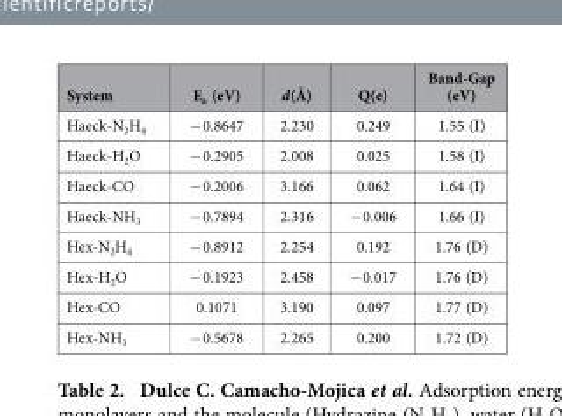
<table><thead><tr><td>System</td><td>E<sub>a</sub> (eV)</td><td>d(Å)</td><td>Q(e)</td><td>Band-Gap (eV)</td></tr></thead><tbody><tr><td>Haeck-N<sub>2</sub>H<sub>4</sub></td><td>− 0.8647</td><td>2.230</td><td>0.249</td><td>1.55 (I)</td></tr><tr><td>Haeck-H<sub>2</sub>O</td><td>− 0.2905</td><td>2.008</td><td>0.025</td><td>1.58 (I)</td></tr><tr><td>Haeck-CO</td><td>− 0.2006</td><td>3.166</td><td>0.062</td><td>1.64 (I)</td></tr><tr><td>Haeck-NH<sub>3</sub></td><td>− 0.7894</td><td>2.316</td><td>− 0.006</td><td>1.66 (I)</td></tr><tr><td>Hex-N<sub>2</sub>H<sub>4</sub></td><td>− 0.8912</td><td>2.254</td><td>0.192</td><td>1.76 (D)</td></tr><tr><td>Hex-H<sub>2</sub>O</td><td>− 0.1923</td><td>2.458</td><td>− 0.017</td><td>1.76 (D)</td></tr><tr><td>Hex-CO</td><td>0.1071</td><td>3.190</td><td>0.097</td><td>1.77 (D)</td></tr><tr><td>Hex-NH<sub>3</sub></td><td>− 0.5678</td><td>2.265</td><td>0.200</td><td>1.72 (D)</td></tr></tbody></table>